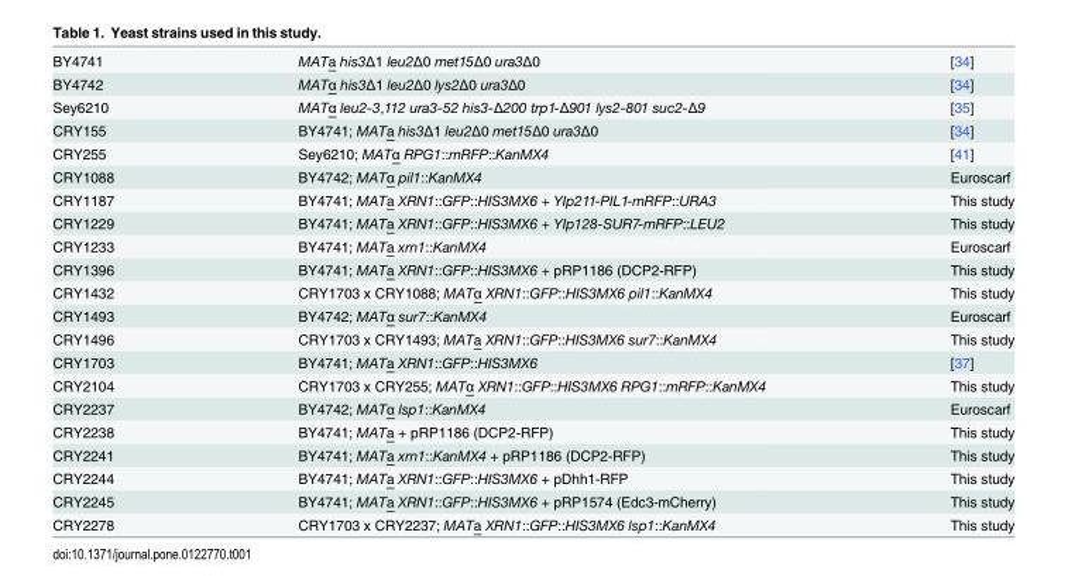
<table><tbody><tr><td>BY4741</td><td>MATa his3Δ1 leu2Δ0 met15Δ0 ura3Δ0</td><td>[34]</td></tr><tr><td>BY4742</td><td>MATα his3Δ1 leu2Δ0 lys2Δ0 ura3Δ0</td><td>[34]</td></tr><tr><td>Sey6210</td><td>MATα leu2-3,112 ura3-52 his3-Δ200 trp1-Δ901 lys2-801 suc2-Δ9</td><td>[35]</td></tr><tr><td>CRY155</td><td>BY4741; MATa his3Δ1 leu2Δ0 met15Δ0 ura3Δ0</td><td>[34]</td></tr><tr><td>CRY255</td><td>Sey6210; MATα RPG1::mRFP::KanMX4</td><td>[41]</td></tr><tr><td>CRY1088</td><td>BY4742; MATα pil1::KanMX4</td><td>Euroscarf</td></tr><tr><td>CRY1187</td><td>BY4741; MATa XRN1::GFP::HIS3MX6 + YIp211-PIL1-mRFP::URA3</td><td>This study</td></tr><tr><td>CRY1229</td><td>BY4741; MATa XRN1::GFP::HIS3MX6 + YIp128-SUR7-mRFP::LEU2</td><td>This study</td></tr><tr><td>CRY1233</td><td>BY4741; MATa xrn1::KanMX4</td><td>Euroscarf</td></tr><tr><td>CRY1396</td><td>BY4741; MATa XRN1::GFP::HIS3MX6 + pRP1186 (DCP2-RFP)</td><td>This study</td></tr><tr><td>CRY1432</td><td>CRY1703 x CRY1088; MATα XRN1::GFP::HIS3MX6 pil1::KanMX4</td><td>This study</td></tr><tr><td>CRY1493</td><td>BY4742; MATα sur7::KanMX4</td><td>Euroscarf</td></tr><tr><td>CRY1496</td><td>CRY1703 x CRY1493; MATa XRN1::GFP::HIS3MX6 sur7::KanMX4</td><td>This study</td></tr><tr><td>CRY1703</td><td>BY4741; MATa XRN1::GFP::HIS3MX6</td><td>[37]</td></tr><tr><td>CRY2104</td><td>CRY1703 x CRY255; MATα XRN1::GFP::HIS3MX6 RPG1::mRFP::KanMX4</td><td>This study</td></tr><tr><td>CRY2237</td><td>BY4742; MATα lsp1::KanMX4</td><td>Euroscarf</td></tr><tr><td>CRY2238</td><td>BY4741; MATa + pRP1186 (DCP2-RFP)</td><td>This study</td></tr><tr><td>CRY2241</td><td>BY4741; MATa xrn1::KanMX4 + pRP1186 (DCP2-RFP)</td><td>This study</td></tr><tr><td>CRY2244</td><td>BY4741; MATa XRN1::GFP::HIS3MX6 + pDhh1-RFP</td><td>This study</td></tr><tr><td>CRY2245</td><td>BY4741; MATa XRN1::GFP::HIS3MX6 + pRP1574 (Edc3-mCherry)</td><td>This study</td></tr><tr><td>CRY2278</td><td>CRY1703 x CRY2237; MATa XRN1::GFP::HIS3MX6 lsp1::KanMX4</td><td>This study</td></tr></tbody></table>